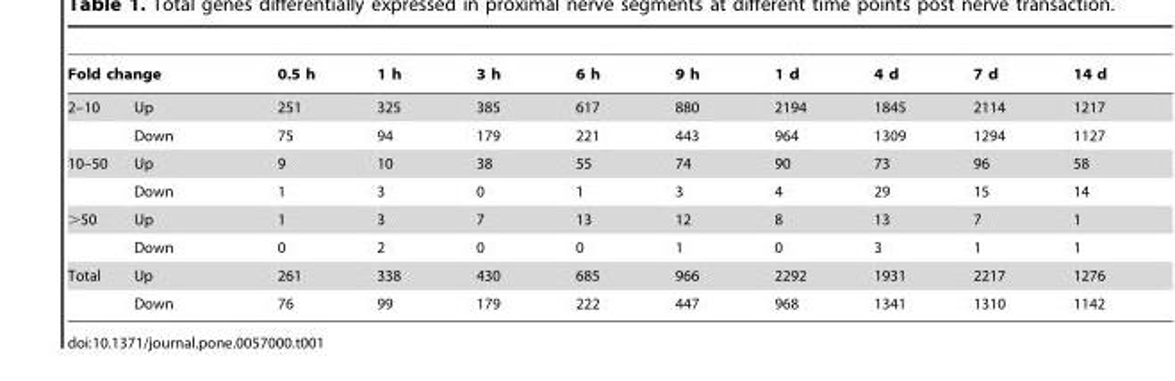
<table><thead><tr><td colspan="2">Fold change</td><td rowspan="2">0.5 h 251</td><td rowspan="2">1 h 325</td><td rowspan="2">3 h 385</td><td rowspan="2">6 h 617</td><td rowspan="2">9 h 880</td><td rowspan="2">1 d 2194</td><td rowspan="2">4 d 1845</td><td rowspan="2">7 d 2114</td><td rowspan="2">14 d 1217</td></tr><tr><td>2–10</td><td>Up</td></tr></thead><tbody><tr><td></td><td>Down</td><td>75</td><td>94</td><td>179</td><td>221</td><td>443</td><td>964</td><td>1309</td><td>1294</td><td>1127</td></tr><tr><td rowspan="2">10–50</td><td>Up</td><td>9</td><td>10</td><td>38</td><td>55</td><td>74</td><td>90</td><td>73</td><td>96</td><td>58</td></tr><tr><td>Down</td><td>1</td><td>3</td><td>0</td><td>1</td><td>3</td><td>4</td><td>29</td><td>15</td><td>14</td></tr><tr><td rowspan="2">&gt;50</td><td>Up</td><td>1</td><td>3</td><td>7</td><td>13</td><td>12</td><td>8</td><td>13</td><td>7</td><td>1</td></tr><tr><td>Down</td><td>0</td><td>2</td><td>0</td><td>0</td><td>1</td><td>0</td><td>3</td><td>1</td><td>1</td></tr><tr><td rowspan="2">Total</td><td>Up</td><td>261</td><td>338</td><td>430</td><td>685</td><td>966</td><td>2292</td><td>1931</td><td>2217</td><td>1276</td></tr><tr><td>Down</td><td>76</td><td>99</td><td>179</td><td>222</td><td>447</td><td>968</td><td>1341</td><td>1310</td><td>1142</td></tr></tbody></table>